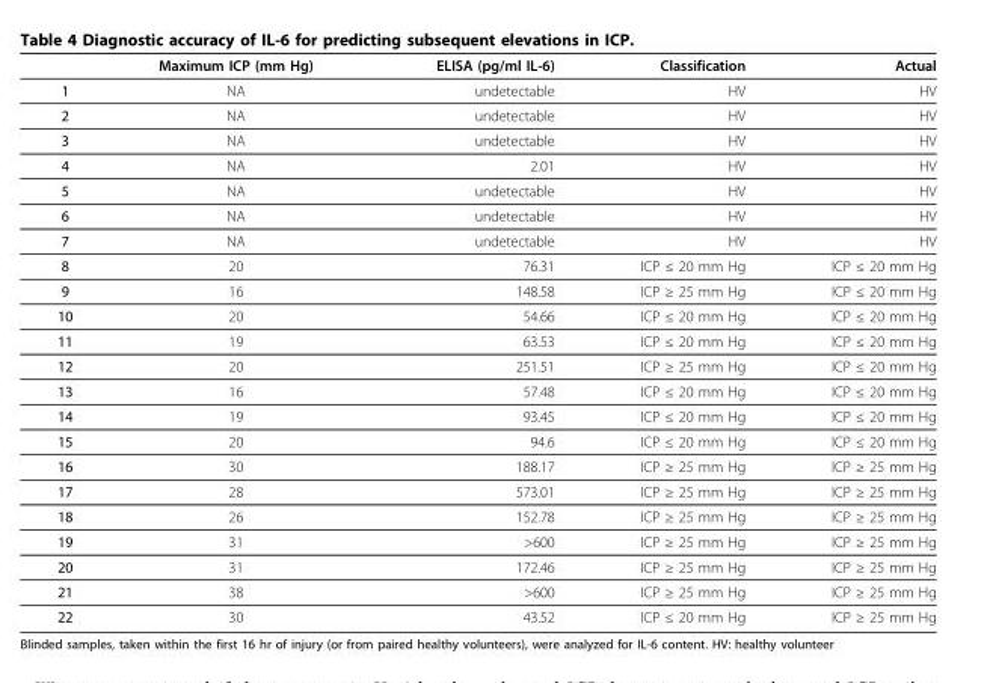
<table><thead><tr><td></td><td>Maximum ICP (mm Hg)</td><td>ELISA (pg/ml IL-6)</td><td>Classification</td><td>Actual</td></tr></thead><tbody><tr><td>1</td><td>NA</td><td>undetectable</td><td>HV</td><td>HV</td></tr><tr><td>2</td><td>NA</td><td>undetectable</td><td>HV</td><td>HV</td></tr><tr><td>3</td><td>NA</td><td>undetectable</td><td>HV</td><td>HV</td></tr><tr><td>4</td><td>NA</td><td>2.01</td><td>HV</td><td>HV</td></tr><tr><td>5</td><td>NA</td><td>undetectable</td><td>HV</td><td>HV</td></tr><tr><td>6</td><td>NA</td><td>undetectable</td><td>HV</td><td>HV</td></tr><tr><td>7</td><td>NA</td><td>undetectable</td><td>HV</td><td>HV</td></tr><tr><td>8</td><td>20</td><td>76.31</td><td>ICP ≤ 20 mm Hg</td><td>ICP ≤ 20 mm Hg</td></tr><tr><td>9</td><td>16</td><td>148.58</td><td>ICP ≥ 25 mm Hg</td><td>ICP ≤ 20 mm Hg</td></tr><tr><td>10</td><td>20</td><td>54.66</td><td>ICP ≤ 20 mm Hg</td><td>ICP ≤ 20 mm Hg</td></tr><tr><td>11</td><td>19</td><td>63.53</td><td>ICP ≤ 20 mm Hg</td><td>ICP ≤ 20 mm Hg</td></tr><tr><td>12</td><td>20</td><td>251.51</td><td>ICP ≥ 25 mm Hg</td><td>ICP ≤ 20 mm Hg</td></tr><tr><td>13</td><td>16</td><td>57.48</td><td>ICP ≤ 20 mm Hg</td><td>ICP ≤ 20 mm Hg</td></tr><tr><td>14</td><td>19</td><td>93.45</td><td>ICP ≤ 20 mm Hg</td><td>ICP ≤ 20 mm Hg</td></tr><tr><td>15</td><td>20</td><td>94.6</td><td>ICP ≤ 20 mm Hg</td><td>ICP ≤ 20 mm Hg</td></tr><tr><td>16</td><td>30</td><td>188.17</td><td>ICP ≥ 25 mm Hg</td><td>ICP ≥ 25 mm Hg</td></tr><tr><td>17</td><td>28</td><td>573.01</td><td>ICP ≥ 25 mm Hg</td><td>ICP ≥ 25 mm Hg</td></tr><tr><td>18</td><td>26</td><td>152.78</td><td>ICP ≥ 25 mm Hg</td><td>ICP ≥ 25 mm Hg</td></tr><tr><td>19</td><td>31</td><td>&gt;600</td><td>ICP ≥ 25 mm Hg</td><td>ICP ≥ 25 mm Hg</td></tr><tr><td>20</td><td>31</td><td>172.46</td><td>ICP ≥ 25 mm Hg</td><td>ICP ≥ 25 mm Hg</td></tr><tr><td>21</td><td>38</td><td>&gt;600</td><td>ICP ≥ 25 mm Hg</td><td>ICP ≥ 25 mm Hg</td></tr><tr><td>22</td><td>30</td><td>43.52</td><td>ICP ≤ 20 mm Hg</td><td>ICP ≥ 25 mm Hg</td></tr></tbody></table>